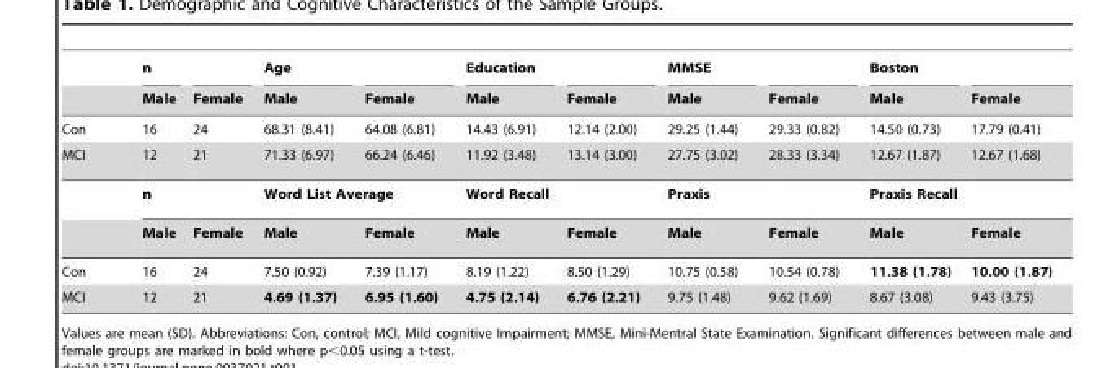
<table><thead><tr><td rowspan="2"></td><td rowspan="2">n Male</td><td rowspan="2">Female</td><td rowspan="2">Age Male</td><td rowspan="2">Female</td><td rowspan="2">Education Male</td><td rowspan="2">Female</td><td rowspan="2">MMSE Male</td><td rowspan="2">Female</td><td rowspan="2">Boston Male</td><td rowspan="2">Female</td></tr><tr></tr></thead><tbody><tr><td>Con</td><td>16</td><td>24</td><td>68.31 (8.41)</td><td>64.08 (6.81)</td><td>14.43 (6.91)</td><td>12.14 (2.00)</td><td>29.25 (1.44)</td><td>29.33 (0.82)</td><td>14.50 (0.73)</td><td>17.79 (0.41)</td></tr><tr><td rowspan="3">MCI</td><td>12</td><td>21</td><td>71.33 (6.97)</td><td>66.24 (6.46)</td><td>11.92 (3.48)</td><td>13.14 (3.00)</td><td>27.75 (3.02)</td><td>28.33 (3.34)</td><td>12.67 (1.87)</td><td>12.67 (1.68)</td></tr><tr><td>n</td><td></td><td colspan="2">Word List Average</td><td colspan="2">Word Recall</td><td>Praxis</td><td></td><td>Praxis Recall</td><td></td></tr><tr><td>Male</td><td>Female</td><td>Male</td><td>Female</td><td>Male</td><td>Female</td><td>Male</td><td>Female</td><td>Male</td><td>Female</td></tr><tr><td>Con</td><td>16</td><td>24</td><td>7.50 (0.92)</td><td>7.39 (1.17)</td><td>8.19 (1.22)</td><td>8.50 (1.29)</td><td>10.75 (0.58)</td><td>10.54 (0.78)</td><td>11.38 (1.78)</td><td>10.00 (1.87)</td></tr><tr><td>MCI</td><td>12</td><td>21</td><td>4.69 (1.37)</td><td>6.95 (1.60)</td><td>4.75 (2.14)</td><td>6.76 (2.21)</td><td>9.75 (1.48)</td><td>9.62 (1.69)</td><td>8.67 (3.08)</td><td>9.43 (3.75)</td></tr></tbody></table>